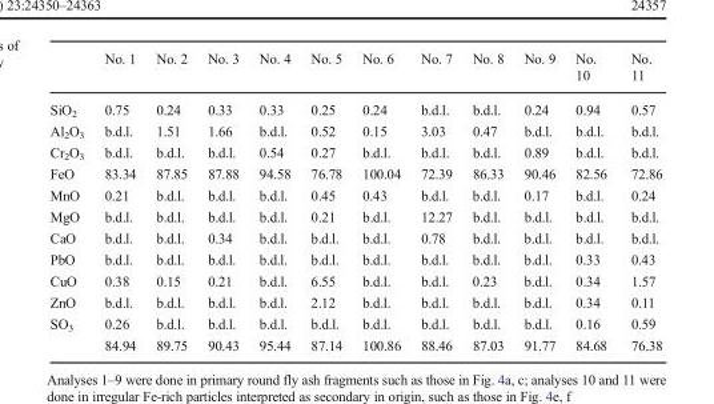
<table><thead><tr><td></td><td>No. 1</td><td>No. 2</td><td>No. 3</td><td>No. 4</td><td>No. 5</td><td>No. 6</td><td>No. 7</td><td>No. 8</td><td>No. 9</td><td>No. 10</td><td>No. 11</td></tr></thead><tbody><tr><td>SiO<sub>2</sub></td><td>0.75</td><td>0.24</td><td>0.33</td><td>0.33</td><td>0.25</td><td>0.24</td><td>b.d.l.</td><td>b.d.l.</td><td>0.24</td><td>0.94</td><td>0.57</td></tr><tr><td>Al<sub>2</sub>O<sub>3</sub></td><td>b.d.l.</td><td>1.51</td><td>1.66</td><td>b.d.l.</td><td>0.52</td><td>0.15</td><td>3.03</td><td>0.47</td><td>b.d.l.</td><td>b.d.l.</td><td>b.d.l.</td></tr><tr><td>Cr<sub>2</sub>O<sub>3</sub></td><td>b.d.l.</td><td>b.d.l.</td><td>b.d.l.</td><td>0.54</td><td>0.27</td><td>b.d.l.</td><td>b.d.l.</td><td>b.d.l.</td><td>0.89</td><td>b.d.l.</td><td>b.d.l.</td></tr><tr><td>FeO</td><td>83.34</td><td>87.85</td><td>87.88</td><td>94.58</td><td>76.78</td><td>100.04</td><td>72.39</td><td>86.33</td><td>90.46</td><td>82.56</td><td>72.86</td></tr><tr><td>MnO</td><td>0.21</td><td>b.d.l.</td><td>b.d.l.</td><td>b.d.l.</td><td>0.45</td><td>0.43</td><td>b.d.l.</td><td>b.d.l.</td><td>0.17</td><td>b.d.l.</td><td>0.24</td></tr><tr><td>MgO</td><td>b.d.l.</td><td>b.d.l.</td><td>b.d.l.</td><td>b.d.l.</td><td>0.21</td><td>b.d.l.</td><td>12.27</td><td>b.d.l.</td><td>b.d.l.</td><td>b.d.l.</td><td>b.d.l.</td></tr><tr><td>CaO</td><td>b.d.l.</td><td>b.d.l.</td><td>0.34</td><td>b.d.l.</td><td>b.d.l.</td><td>b.d.l.</td><td>0.78</td><td>b.d.l.</td><td>b.d.l.</td><td>b.d.l.</td><td>b.d.l.</td></tr><tr><td>PbO</td><td>b.d.l.</td><td>b.d.l.</td><td>b.d.l.</td><td>b.d.l.</td><td>b.d.l.</td><td>b.d.l.</td><td>b.d.l.</td><td>b.d.l.</td><td>b.d.l.</td><td>0.33</td><td>0.43</td></tr><tr><td>CuO</td><td>0.38</td><td>0.15</td><td>0.21</td><td>b.d.l.</td><td>6.55</td><td>b.d.l.</td><td>b.d.l.</td><td>0.23</td><td>b.d.l.</td><td>0.34</td><td>1.57</td></tr><tr><td>ZnO</td><td>b.d.l.</td><td>b.d.l.</td><td>b.d.l.</td><td>b.d.l.</td><td>2.12</td><td>b.d.l.</td><td>b.d.l.</td><td>b.d.l.</td><td>b.d.l.</td><td>0.34</td><td>0.11</td></tr><tr><td rowspan="2">SO<sub>3</sub></td><td>0.26</td><td>b.d.l.</td><td>b.d.l.</td><td>b.d.l.</td><td>b.d.l.</td><td>b.d.l.</td><td>b.d.l.</td><td>b.d.l.</td><td>b.d.l.</td><td>0.16</td><td>0.59</td></tr><tr><td>84.94</td><td>89.75</td><td>90.43</td><td>95.44</td><td>87.14</td><td>100.86</td><td>88.46</td><td>87.03</td><td>91.77</td><td>84.68</td><td>76.38</td></tr></tbody></table>